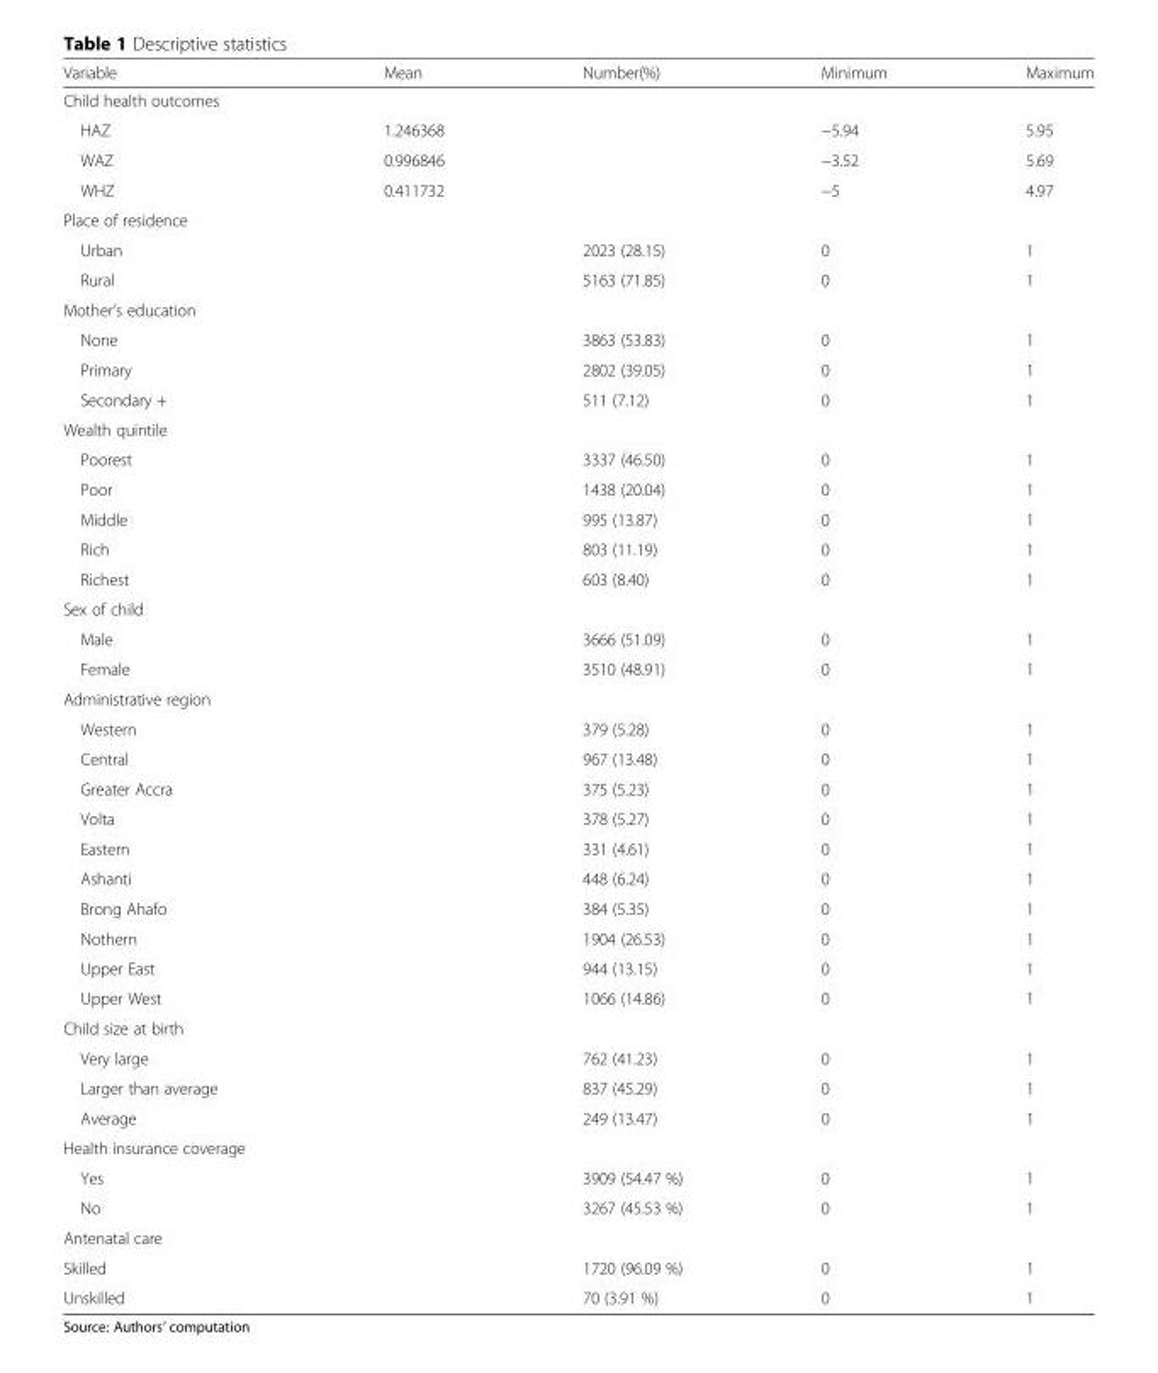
<table><thead><tr><td>Variable</td><td>Mean</td><td>Number(%)</td><td>Minimum</td><td>Maximum</td></tr></thead><tbody><tr><td colspan="5">Child health outcomes</td></tr><tr><td>HAZ</td><td>1.246368</td><td></td><td>−5.94</td><td>5.95</td></tr><tr><td>WAZ</td><td>0.996846</td><td></td><td>−3.52</td><td>5.69</td></tr><tr><td>WHZ</td><td>0.411732</td><td></td><td>−5</td><td>4.97</td></tr><tr><td colspan="5">Place of residence</td></tr><tr><td>Urban</td><td></td><td>2023 (28.15)</td><td>0</td><td>1</td></tr><tr><td>Rural</td><td></td><td>5163 (71.85)</td><td>0</td><td>1</td></tr><tr><td colspan="5">Mother’s education</td></tr><tr><td>None</td><td></td><td>3863 (53.83)</td><td>0</td><td>1</td></tr><tr><td>Primary</td><td></td><td>2802 (39.05)</td><td>0</td><td>1</td></tr><tr><td>Secondary +</td><td></td><td>511 (7.12)</td><td>0</td><td>1</td></tr><tr><td colspan="5">Wealth quintile</td></tr><tr><td>Poorest</td><td></td><td>3337 (46.50)</td><td>0</td><td>1</td></tr><tr><td>Poor</td><td></td><td>1438 (20.04)</td><td>0</td><td>1</td></tr><tr><td>Middle</td><td></td><td>995 (13.87)</td><td>0</td><td>1</td></tr><tr><td>Rich</td><td></td><td>803 (11.19)</td><td>0</td><td>1</td></tr><tr><td>Richest</td><td></td><td>603 (8.40)</td><td>0</td><td>1</td></tr><tr><td colspan="5">Sex of child</td></tr><tr><td>Male</td><td></td><td>3666 (51.09)</td><td>0</td><td>1</td></tr><tr><td>Female</td><td></td><td>3510 (48.91)</td><td>0</td><td>1</td></tr><tr><td colspan="5">Administrative region</td></tr><tr><td>Western</td><td></td><td>379 (5.28)</td><td>0</td><td>1</td></tr><tr><td>Central</td><td></td><td>967 (13.48)</td><td>0</td><td>1</td></tr><tr><td>Greater Accra</td><td></td><td>375 (5.23)</td><td>0</td><td>1</td></tr><tr><td>Volta</td><td></td><td>378 (5.27)</td><td>0</td><td>1</td></tr><tr><td>Eastern</td><td></td><td>331 (4.61)</td><td>0</td><td>1</td></tr><tr><td>Ashanti</td><td></td><td>448 (6.24)</td><td>0</td><td>1</td></tr><tr><td>Brong Ahafo</td><td></td><td>384 (5.35)</td><td>0</td><td>1</td></tr><tr><td>Nothern</td><td></td><td>1904 (26.53)</td><td>0</td><td>1</td></tr><tr><td>Upper East</td><td></td><td>944 (13.15)</td><td>0</td><td>1</td></tr><tr><td>Upper West</td><td></td><td>1066 (14.86)</td><td>0</td><td>1</td></tr><tr><td colspan="5">Child size at birth</td></tr><tr><td>Very large</td><td></td><td>762 (41.23)</td><td>0</td><td>1</td></tr><tr><td>Larger than average</td><td></td><td>837 (45.29)</td><td>0</td><td>1</td></tr><tr><td>Average</td><td></td><td>249 (13.47)</td><td>0</td><td>1</td></tr><tr><td colspan="5">Health insurance coverage</td></tr><tr><td>Yes</td><td></td><td>3909 (54.47 %)</td><td>0</td><td>1</td></tr><tr><td>No</td><td></td><td>3267 (45.53 %)</td><td>0</td><td>1</td></tr><tr><td colspan="5">Antenatal care</td></tr><tr><td>Skilled</td><td></td><td>1720 (96.09 %)</td><td>0</td><td>1</td></tr><tr><td>Unskilled</td><td></td><td>70 (3.91 %)</td><td>0</td><td>1</td></tr></tbody></table>